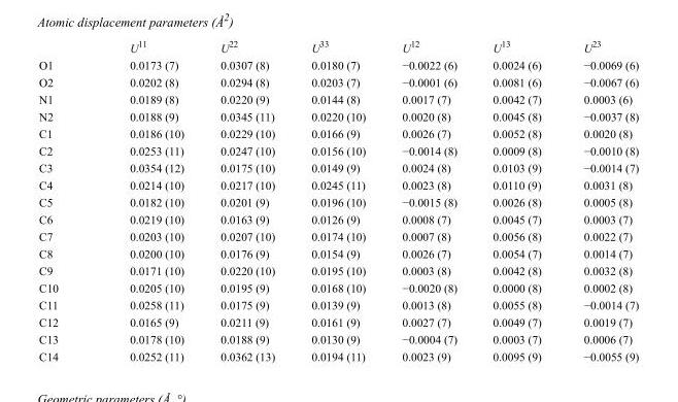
<table><thead><tr><td></td><td>U<sup>11</sup></td><td>U<sup>22</sup></td><td>U<sup>33</sup></td><td>U<sup>12</sup></td><td>U<sup>13</sup></td><td>U<sup>23</sup></td></tr></thead><tbody><tr><td>O1</td><td>0.0173 (7)</td><td>0.0307 (8)</td><td>0.0180 (7)</td><td>−0.0022 (6)</td><td>0.0024 (6)</td><td>−0.0069 (6)</td></tr><tr><td>O2</td><td>0.0202 (8)</td><td>0.0294 (8)</td><td>0.0203 (7)</td><td>−0.0001 (6)</td><td>0.0081 (6)</td><td>−0.0067 (6)</td></tr><tr><td>N1</td><td>0.0189 (8)</td><td>0.0220 (9)</td><td>0.0144 (8)</td><td>0.0017 (7)</td><td>0.0042 (7)</td><td>0.0003 (6)</td></tr><tr><td>N2</td><td>0.0188 (9)</td><td>0.0345 (11)</td><td>0.0220 (10)</td><td>0.0020 (8)</td><td>0.0045 (8)</td><td>−0.0037 (8)</td></tr><tr><td>C1</td><td>0.0186 (10)</td><td>0.0229 (10)</td><td>0.0166 (9)</td><td>0.0026 (7)</td><td>0.0052 (8)</td><td>0.0020 (8)</td></tr><tr><td>C2</td><td>0.0253 (11)</td><td>0.0247 (10)</td><td>0.0156 (10)</td><td>−0.0014 (8)</td><td>0.0009 (8)</td><td>−0.0010 (8)</td></tr><tr><td>C3</td><td>0.0354 (12)</td><td>0.0175 (10)</td><td>0.0149 (9)</td><td>0.0024 (8)</td><td>0.0103 (9)</td><td>−0.0014 (7)</td></tr><tr><td>C4</td><td>0.0214 (10)</td><td>0.0217 (10)</td><td>0.0245 (11)</td><td>0.0023 (8)</td><td>0.0110 (9)</td><td>0.0031 (8)</td></tr><tr><td>C5</td><td>0.0182 (10)</td><td>0.0201 (9)</td><td>0.0196 (10)</td><td>−0.0015 (8)</td><td>0.0026 (8)</td><td>0.0005 (8)</td></tr><tr><td>C6</td><td>0.0219 (10)</td><td>0.0163 (9)</td><td>0.0126 (9)</td><td>0.0008 (7)</td><td>0.0045 (7)</td><td>0.0003 (7)</td></tr><tr><td>C7</td><td>0.0203 (10)</td><td>0.0207 (10)</td><td>0.0174 (10)</td><td>0.0007 (8)</td><td>0.0056 (8)</td><td>0.0022 (7)</td></tr><tr><td>C8</td><td>0.0200 (10)</td><td>0.0176 (9)</td><td>0.0154 (9)</td><td>0.0026 (7)</td><td>0.0054 (7)</td><td>0.0014 (7)</td></tr><tr><td>C9</td><td>0.0171 (10)</td><td>0.0220 (10)</td><td>0.0195 (10)</td><td>0.0003 (8)</td><td>0.0042 (8)</td><td>0.0032 (8)</td></tr><tr><td>C10</td><td>0.0205 (10)</td><td>0.0195 (9)</td><td>0.0168 (10)</td><td>−0.0020 (8)</td><td>0.0000 (8)</td><td>0.0002 (8)</td></tr><tr><td>C11</td><td>0.0258 (11)</td><td>0.0175 (9)</td><td>0.0139 (9)</td><td>0.0013 (8)</td><td>0.0055 (8)</td><td>−0.0014 (7)</td></tr><tr><td>C12</td><td>0.0165 (9)</td><td>0.0211 (9)</td><td>0.0161 (9)</td><td>0.0027 (7)</td><td>0.0049 (7)</td><td>0.0019 (7)</td></tr><tr><td>C13</td><td>0.0178 (10)</td><td>0.0188 (9)</td><td>0.0130 (9)</td><td>−0.0004 (7)</td><td>0.0003 (7)</td><td>0.0006 (7)</td></tr><tr><td>C14</td><td>0.0252 (11)</td><td>0.0362 (13)</td><td>0.0194 (11)</td><td>0.0023 (9)</td><td>0.0095 (9)</td><td>−0.0055 (9)</td></tr></tbody></table>